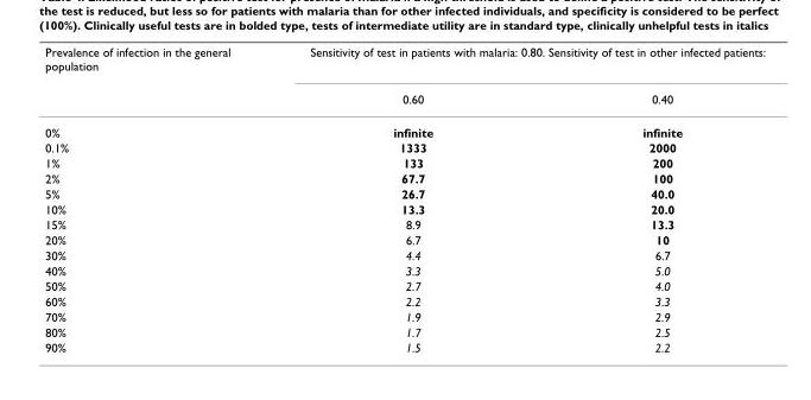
<table><thead><tr><td rowspan="2">Prevalence of infection in the general population</td><td colspan="2">Sensitivity of test in patients with malaria: 0.80. Sensitivity of test in other infected patients:</td></tr><tr><td>0.60</td><td>0.40</td></tr></thead><tbody><tr><td>0%</td><td>infinite</td><td>infinite</td></tr><tr><td>0.1%</td><td>1333</td><td>2000</td></tr><tr><td>1%</td><td>133</td><td>200</td></tr><tr><td>2%</td><td>67.7</td><td>100</td></tr><tr><td>5%</td><td>26.7</td><td>40.0</td></tr><tr><td>10%</td><td>13.3</td><td>20.0</td></tr><tr><td>15%</td><td>8.9</td><td>13.3</td></tr><tr><td>20%</td><td>6.7</td><td>10</td></tr><tr><td>30%</td><td>4.4</td><td>6.7</td></tr><tr><td>40%</td><td>3.3</td><td>5.0</td></tr><tr><td>50%</td><td>2.7</td><td>4.0</td></tr><tr><td>60%</td><td>2.2</td><td>3.3</td></tr><tr><td>70%</td><td>1.9</td><td>2.9</td></tr><tr><td>80%</td><td>1.7</td><td>2.5</td></tr><tr><td>90%</td><td>1.5</td><td>2.2</td></tr></tbody></table>